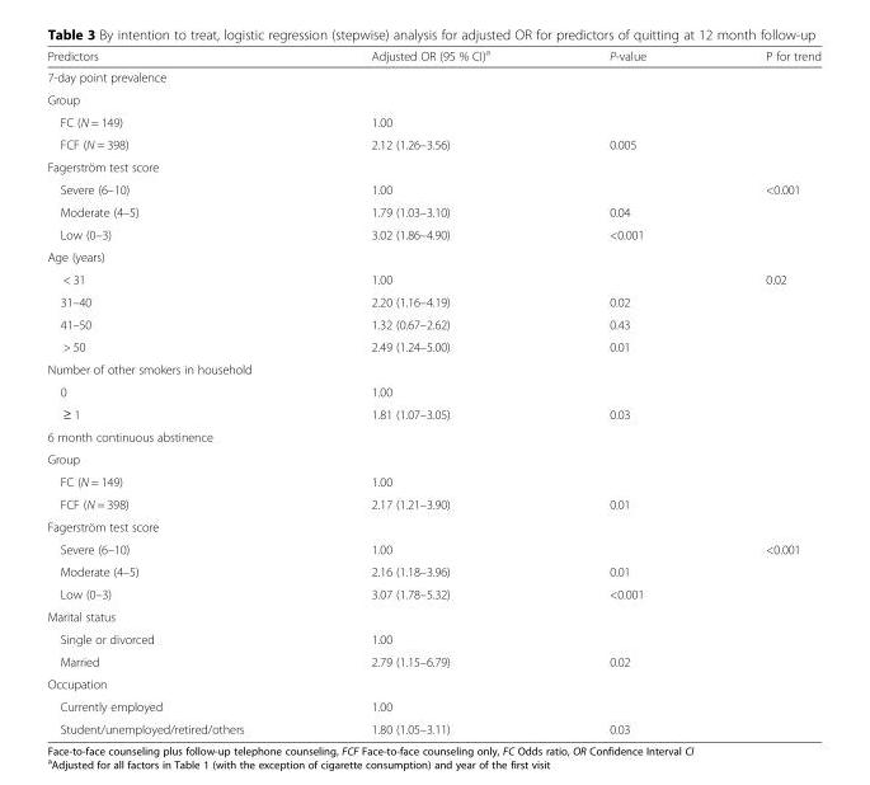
<table><thead><tr><td>Predictors</td><td>Adjusted OR (95 % CI)<sup>a</sup></td><td>P-value</td><td>P for trend</td></tr></thead><tbody><tr><td colspan="4">7-day point prevalence</td></tr><tr><td colspan="4">Group</td></tr><tr><td>FC (N = 149)</td><td>1.00</td><td></td><td></td></tr><tr><td>FCF (N = 398)</td><td>2.12 (1.26–3.56)</td><td>0.005</td><td></td></tr><tr><td colspan="4">Fagerström test score</td></tr><tr><td>Severe (6–10)</td><td>1.00</td><td></td><td>&lt;0.001</td></tr><tr><td>Moderate (4–5)</td><td>1.79 (1.03–3.10)</td><td>0.04</td><td></td></tr><tr><td>Low (0–3)</td><td>3.02 (1.86–4.90)</td><td>&lt;0.001</td><td></td></tr><tr><td colspan="4">Age (years)</td></tr><tr><td>&lt; 31</td><td>1.00</td><td></td><td>0.02</td></tr><tr><td>31–40</td><td>2.20 (1.16–4.19)</td><td>0.02</td><td></td></tr><tr><td>41–50</td><td>1.32 (0.67–2.62)</td><td>0.43</td><td></td></tr><tr><td>&gt; 50</td><td>2.49 (1.24–5.00)</td><td>0.01</td><td></td></tr><tr><td colspan="4">Number of other smokers in household</td></tr><tr><td>0</td><td>1.00</td><td></td><td></td></tr><tr><td>≥ 1</td><td>1.81 (1.07–3.05)</td><td>0.03</td><td></td></tr><tr><td colspan="4">6 month continuous abstinence</td></tr><tr><td colspan="4">Group</td></tr><tr><td>FC (N = 149)</td><td>1.00</td><td></td><td></td></tr><tr><td>FCF (N = 398)</td><td>2.17 (1.21–3.90)</td><td>0.01</td><td></td></tr><tr><td colspan="4">Fagerström test score</td></tr><tr><td>Severe (6–10)</td><td>1.00</td><td></td><td>&lt;0.001</td></tr><tr><td>Moderate (4–5)</td><td>2.16 (1.18–3.96)</td><td>0.01</td><td></td></tr><tr><td>Low (0–3)</td><td>3.07 (1.78–5.32)</td><td>&lt;0.001</td><td></td></tr><tr><td colspan="4">Marital status</td></tr><tr><td>Single or divorced</td><td>1.00</td><td></td><td></td></tr><tr><td>Married</td><td>2.79 (1.15–6.79)</td><td>0.02</td><td></td></tr><tr><td colspan="4">Occupation</td></tr><tr><td>Currently employed</td><td>1.00</td><td></td><td></td></tr><tr><td>Student/unemployed/retired/others</td><td>1.80 (1.05–3.11)</td><td>0.03</td><td></td></tr></tbody></table>